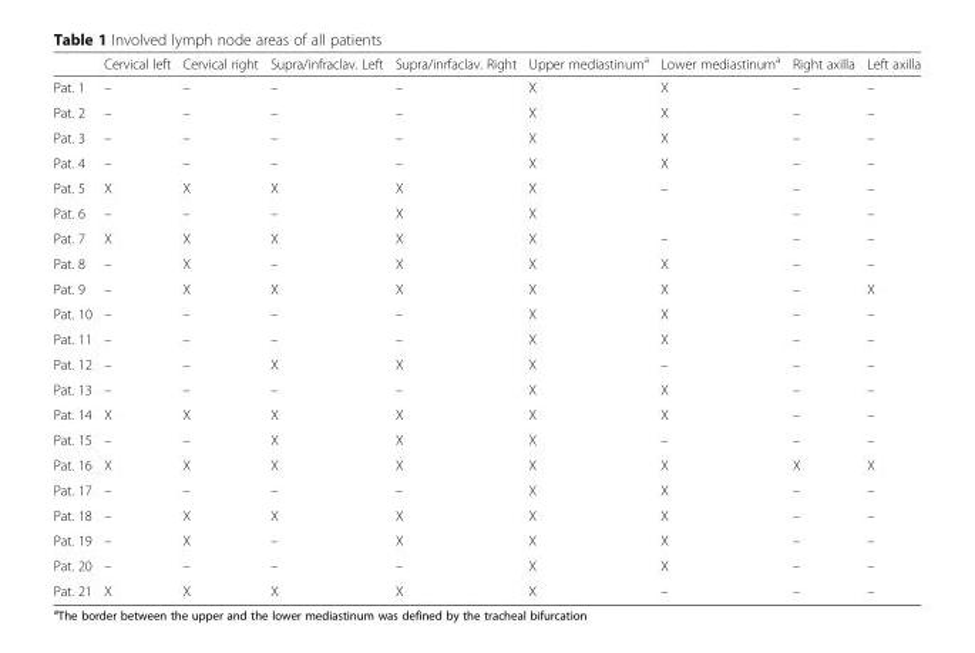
<table><thead><tr><td></td><td>Cervical left</td><td>Cervical right</td><td>Supra/infraclav. Left</td><td>Supra/inrfaclav. Right</td><td>Upper mediastinum<sup>a</sup></td><td>Lower mediastinum<sup>a</sup></td><td>Right axilla</td><td>Left axilla</td></tr></thead><tbody><tr><td>Pat. 1</td><td>–</td><td>–</td><td>–</td><td>–</td><td>X</td><td>X</td><td>–</td><td>–</td></tr><tr><td>Pat. 2</td><td>–</td><td>–</td><td>–</td><td>–</td><td>X</td><td>X</td><td>–</td><td>–</td></tr><tr><td>Pat. 3</td><td>–</td><td>–</td><td>–</td><td>–</td><td>X</td><td>X</td><td>–</td><td>–</td></tr><tr><td>Pat. 4</td><td>–</td><td>–</td><td>–</td><td>–</td><td>X</td><td>X</td><td>–</td><td>–</td></tr><tr><td>Pat. 5</td><td>X</td><td>X</td><td>X</td><td>X</td><td>X</td><td>–</td><td>–</td><td>–</td></tr><tr><td>Pat. 6</td><td>–</td><td>–</td><td>–</td><td>X</td><td>X</td><td></td><td>–</td><td>–</td></tr><tr><td>Pat. 7</td><td>X</td><td>X</td><td>X</td><td>X</td><td>X</td><td>–</td><td>–</td><td>–</td></tr><tr><td>Pat. 8</td><td>–</td><td>X</td><td>–</td><td>X</td><td>X</td><td>X</td><td>–</td><td>–</td></tr><tr><td>Pat. 9</td><td>–</td><td>X</td><td>X</td><td>X</td><td>X</td><td>X</td><td>–</td><td>X</td></tr><tr><td>Pat. 10</td><td>–</td><td>–</td><td>–</td><td>–</td><td>X</td><td>X</td><td>–</td><td>–</td></tr><tr><td>Pat. 11</td><td>–</td><td>–</td><td>–</td><td>–</td><td>X</td><td>X</td><td>–</td><td>–</td></tr><tr><td>Pat. 12</td><td>–</td><td>–</td><td>X</td><td>X</td><td>X</td><td>–</td><td>–</td><td>–</td></tr><tr><td>Pat. 13</td><td>–</td><td>–</td><td>–</td><td>–</td><td>X</td><td>X</td><td>–</td><td>–</td></tr><tr><td>Pat. 14</td><td>X</td><td>X</td><td>X</td><td>X</td><td>X</td><td>X</td><td>–</td><td>–</td></tr><tr><td>Pat. 15</td><td>–</td><td>–</td><td>X</td><td>X</td><td>X</td><td>–</td><td>–</td><td>–</td></tr><tr><td>Pat. 16</td><td>X</td><td>X</td><td>X</td><td>X</td><td>X</td><td>X</td><td>X</td><td>X</td></tr><tr><td>Pat. 17</td><td>–</td><td>–</td><td>–</td><td>–</td><td>X</td><td>X</td><td>–</td><td>–</td></tr><tr><td>Pat. 18</td><td>–</td><td>X</td><td>X</td><td>X</td><td>X</td><td>X</td><td>–</td><td>–</td></tr><tr><td>Pat. 19</td><td>–</td><td>X</td><td>–</td><td>X</td><td>X</td><td>X</td><td>–</td><td>–</td></tr><tr><td>Pat. 20</td><td>–</td><td>–</td><td>–</td><td>–</td><td>X</td><td>X</td><td>–</td><td>–</td></tr><tr><td>Pat. 21</td><td>X</td><td>X</td><td>X</td><td>X</td><td>X</td><td>–</td><td>–</td><td>–</td></tr></tbody></table>